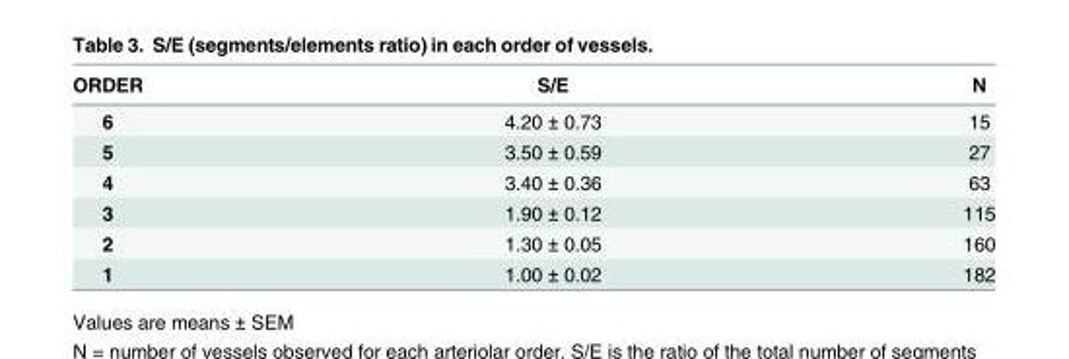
<table><thead><tr><td>ORDER</td><td>S/E</td><td>N</td></tr></thead><tbody><tr><td>6</td><td>4.20 ± 0.73</td><td>15</td></tr><tr><td>5</td><td>3.50 ± 0.59</td><td>27</td></tr><tr><td>4</td><td>3.40 ± 0.36</td><td>63</td></tr><tr><td>3</td><td>1.90 ± 0.12</td><td>115</td></tr><tr><td>2</td><td>1.30 ± 0.05</td><td>160</td></tr><tr><td>1</td><td>1.00 ± 0.02</td><td>182</td></tr></tbody></table>